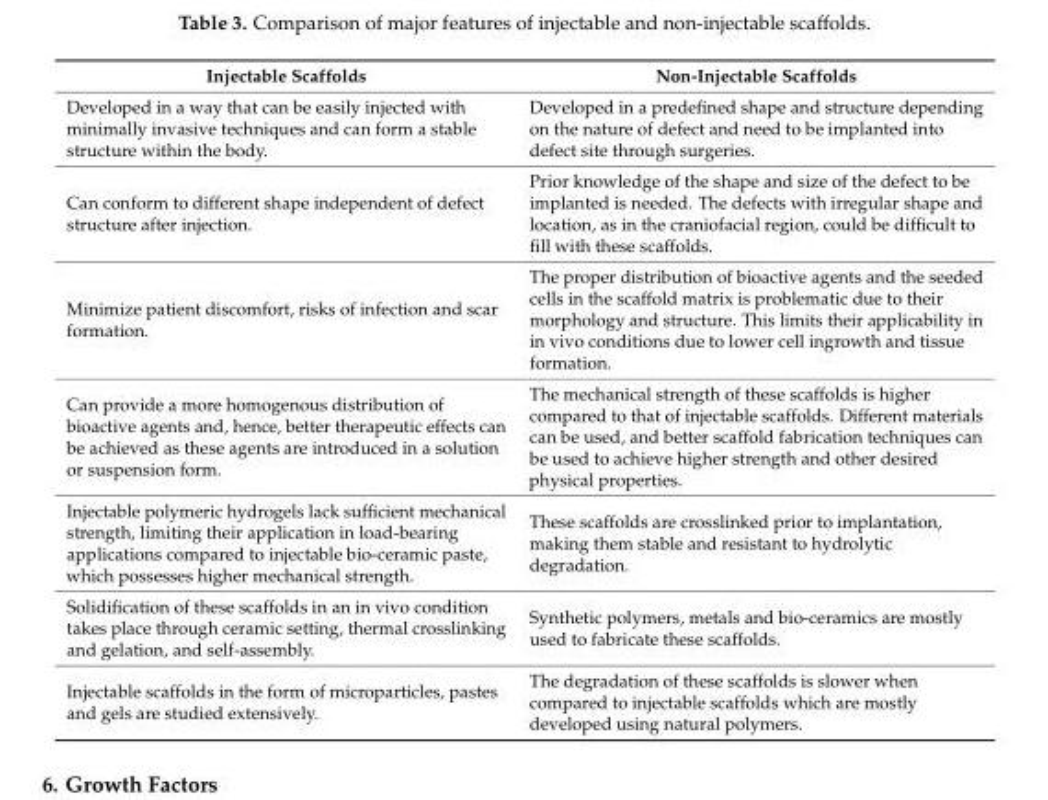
<table><thead><tr><td>Injectable Scaffolds</td><td>Non-Injectable Scaffolds</td></tr></thead><tbody><tr><td>Developed in a way that can be easily injected with minimally invasive techniques and can form a stable structure within the body.</td><td>Developed in a predefined shape and structure depending on the nature of defect and need to be implanted into defect site through surgeries.</td></tr><tr><td>Can conform to different shape independent of defect structure after injection.</td><td>Prior knowledge of the shape and size of the defect to be implanted is needed. The defects with irregular shape and location, as in the craniofacial region, could be difficult to fill with these scaffolds.</td></tr><tr><td>Minimize patient discomfort, risks of infection and scar formation.</td><td>The proper distribution of bioactive agents and the seeded cells in the scaffold matrix is problematic due to their morphology and structure. This limits their applicability in in vivo conditions due to lower cell ingrowth and tissue formation.</td></tr><tr><td>Can provide a more homogenous distribution of bioactive agents and, hence, better therapeutic effects can be achieved as these agents are introduced in a solution or suspension form.</td><td>The mechanical strength of these scaffolds is higher compared to that of injectable scaffolds. Different materials can be used, and better scaffold fabrication techniques can be used to achieve higher strength and other desired physical properties.</td></tr><tr><td>Injectable polymeric hydrogels lack sufficient mechanical strength, limiting their application in load-bearing applications compared to injectable bio-ceramic paste, which possesses higher mechanical strength.</td><td>These scaffolds are crosslinked prior to implantation, making them stable and resistant to hydrolytic degradation.</td></tr><tr><td>Solidification of these scaffolds in an in vivo condition takes place through ceramic setting, thermal crosslinking and gelation, and self-assembly.</td><td>Synthetic polymers, metals and bio-ceramics are mostly used to fabricate these scaffolds.</td></tr><tr><td>Injectable scaffolds in the form of microparticles, pastes and gels are studied extensively.</td><td>The degradation of these scaffolds is slower when compared to injectable scaffolds which are mostly developed using natural polymers.</td></tr></tbody></table>